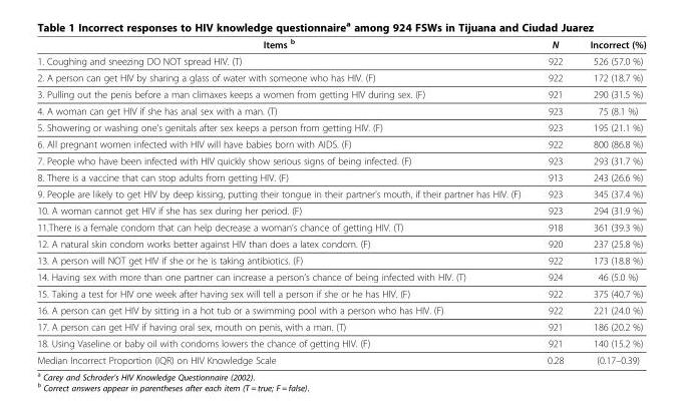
<table><thead><tr><td>Items <sup>b</sup></td><td>N</td><td>Incorrect (%)</td></tr></thead><tbody><tr><td>1. Coughing and sneezing DO NOT spread HIV. (T)</td><td>922</td><td>526 (57.0 %)</td></tr><tr><td>2. A person can get HIV by sharing a glass of water with someone who has HIV. (F)</td><td>922</td><td>172 (18.7 %)</td></tr><tr><td>3. Pulling out the penis before a man climaxes keeps a women from getting HIV during sex. (F)</td><td>921</td><td>290 (31.5 %)</td></tr><tr><td>4. A woman can get HIV if she has anal sex with a man. (T)</td><td>923</td><td>75 (8.1 %)</td></tr><tr><td>5. Showering or washing one’s genitals after sex keeps a person from getting HIV. (F)</td><td>923</td><td>195 (21.1 %)</td></tr><tr><td>6. All pregnant women infected with HIV will have babies born with AIDS. (F)</td><td>922</td><td>800 (86.8 %)</td></tr><tr><td>7. People who have been infected with HIV quickly show serious signs of being infected. (F)</td><td>923</td><td>293 (31.7 %)</td></tr><tr><td>8. There is a vaccine that can stop adults from getting HIV. (F)</td><td>913</td><td>243 (26.6 %)</td></tr><tr><td>9. People are likely to get HIV by deep kissing, putting their tongue in their partner’s mouth, if their partner has HIV. (F)</td><td>923</td><td>345 (37.4 %)</td></tr><tr><td>10. A woman cannot get HIV if she has sex during her period. (F)</td><td>923</td><td>294 (31.9 %)</td></tr><tr><td>11.There is a female condom that can help decrease a woman’s chance of getting HIV. (T)</td><td>918</td><td>361 (39.3 %)</td></tr><tr><td>12. A natural skin condom works better against HIV than does a latex condom. (F)</td><td>920</td><td>237 (25.8 %)</td></tr><tr><td>13. A person will NOT get HIV if she or he is taking antibiotics. (F)</td><td>922</td><td>173 (18.8 %)</td></tr><tr><td>14. Having sex with more than one partner can increase a person’s chance of being infected with HIV. (T)</td><td>924</td><td>46 (5.0 %)</td></tr><tr><td>15. Taking a test for HIV one week after having sex will tell a person if she or he has HIV. (F)</td><td>922</td><td>375 (40.7 %)</td></tr><tr><td>16. A person can get HIV by sitting in a hot tub or a swimming pool with a person who has HIV. (F)</td><td>922</td><td>221 (24.0 %)</td></tr><tr><td>17. A person can get HIV if having oral sex, mouth on penis, with a man. (T)</td><td>921</td><td>186 (20.2 %)</td></tr><tr><td>18. Using Vaseline or baby oil with condoms lowers the chance of getting HIV. (F)</td><td>921</td><td>140 (15.2 %)</td></tr><tr><td>Median Incorrect Proportion (IQR) on HIV Knowledge Scale</td><td>0.28</td><td>(0.17–0.39)</td></tr></tbody></table>